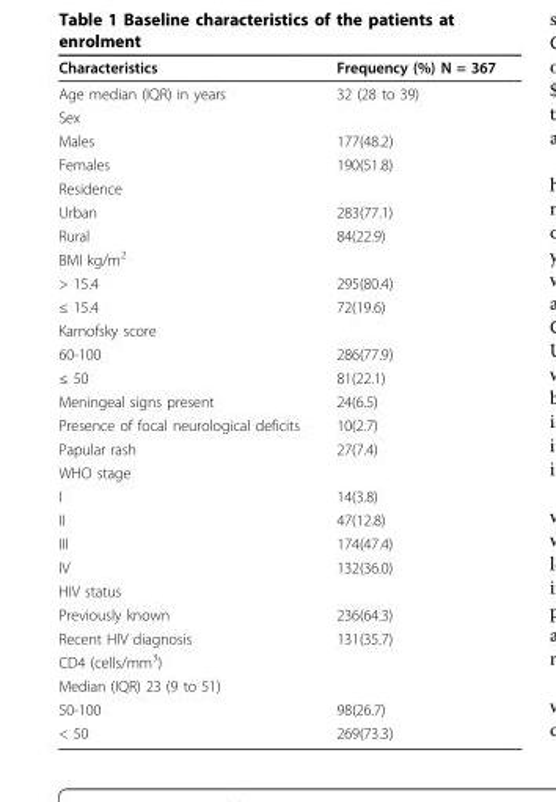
<table><thead><tr><td>Characteristics</td><td>Frequency (%) N = 367</td></tr></thead><tbody><tr><td>Age median (IQR) in years</td><td>32 (28 to 39)</td></tr><tr><td colspan="2">Sex</td></tr><tr><td>Males</td><td>177(48.2)</td></tr><tr><td>Females</td><td>190(51.8)</td></tr><tr><td colspan="2">Residence</td></tr><tr><td>Urban</td><td>283(77.1)</td></tr><tr><td>Rural</td><td>84(22.9)</td></tr><tr><td colspan="2">BMI kg/m<sup>2</sup></td></tr><tr><td>&gt; 15.4</td><td>295(80.4)</td></tr><tr><td>≤ 15.4</td><td>72(19.6)</td></tr><tr><td colspan="2">Karnofsky score</td></tr><tr><td>60-100</td><td>286(77.9)</td></tr><tr><td>≤ 50</td><td>81(22.1)</td></tr><tr><td>Meningeal signs present</td><td>24(6.5)</td></tr><tr><td>Presence of focal neurological deficits</td><td>10(2.7)</td></tr><tr><td>Papular rash</td><td>27(7.4)</td></tr><tr><td colspan="2">WHO stage</td></tr><tr><td>I</td><td>14(3.8)</td></tr><tr><td>II</td><td>47(12.8)</td></tr><tr><td>III</td><td>174(47.4)</td></tr><tr><td>IV</td><td>132(36.0)</td></tr><tr><td colspan="2">HIV status</td></tr><tr><td>Previously known</td><td>236(64.3)</td></tr><tr><td>Recent HIV diagnosis</td><td>131(35.7)</td></tr><tr><td colspan="2">CD4 (cells/mm<sup>3</sup>)</td></tr><tr><td colspan="2">Median (IQR) 23 (9 to 51)</td></tr><tr><td>50-100</td><td>98(26.7)</td></tr><tr><td>&lt; 50</td><td>269(73.3)</td></tr></tbody></table>